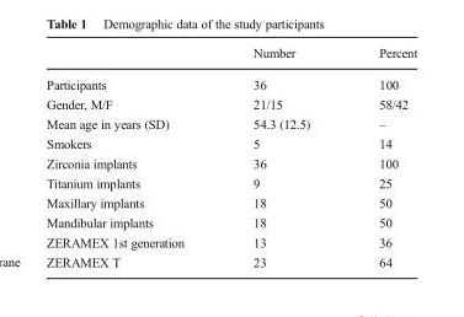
<table><thead><tr><td></td><td>Number</td><td>Percent</td></tr></thead><tbody><tr><td>Participants</td><td>36</td><td>100</td></tr><tr><td>Gender, M/F</td><td>21/15</td><td>58/42</td></tr><tr><td>Mean age in years (SD)</td><td>54.3 (12.5)</td><td>–</td></tr><tr><td>Smokers</td><td>5</td><td>14</td></tr><tr><td>Zirconia implants</td><td>36</td><td>100</td></tr><tr><td>Titanium implants</td><td>9</td><td>25</td></tr><tr><td>Maxillary implants</td><td>18</td><td>50</td></tr><tr><td>Mandibular implants</td><td>18</td><td>50</td></tr><tr><td>ZERAMEX 1st generation</td><td>13</td><td>36</td></tr><tr><td>ZERAMEX T</td><td>23</td><td>64</td></tr></tbody></table>